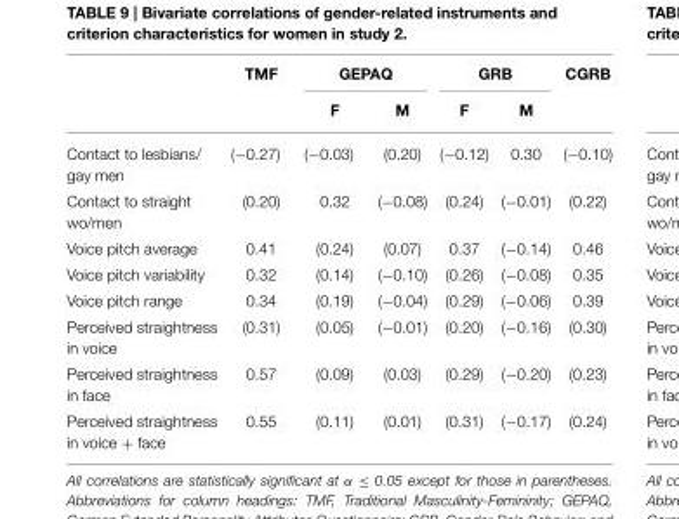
<table><thead><tr><td rowspan="2"></td><td rowspan="2">TMF</td><td colspan="2">GEPAQ</td><td colspan="2">GRB</td><td rowspan="2">CGRB</td></tr><tr><td>F</td><td>M</td><td>F</td><td>M</td></tr></thead><tbody><tr><td>Contact to lesbians/ gay men</td><td>(−0.27)</td><td>(−0.03)</td><td>(0.20)</td><td>(−0.12)</td><td>0.30</td><td>(−0.10)</td></tr><tr><td>Contact to straight wo/men</td><td>(0.20)</td><td>0.32</td><td>(−0.08)</td><td>(0.24)</td><td>(−0.01)</td><td>(0.22)</td></tr><tr><td>Voice pitch average</td><td>0.41</td><td>(0.24)</td><td>(0.07)</td><td>0.37</td><td>(−0.14)</td><td>0.46</td></tr><tr><td>Voice pitch variability</td><td>0.32</td><td>(0.14)</td><td>(−0.10)</td><td>(0.26)</td><td>(−0.08)</td><td>0.35</td></tr><tr><td>Voice pitch range</td><td>0.34</td><td>(0.19)</td><td>(−0.04)</td><td>(0.29)</td><td>(−0.06)</td><td>0.39</td></tr><tr><td>Perceived straightness in voice</td><td>(0.31)</td><td>(0.05)</td><td>(−0.01)</td><td>(0.20)</td><td>(−0.16)</td><td>(0.30)</td></tr><tr><td>Perceived straightness in face</td><td>0.57</td><td>(0.09)</td><td>(0.03)</td><td>(0.29)</td><td>(−0.20)</td><td>(0.23)</td></tr><tr><td>Perceived straightness in voice + face</td><td>0.55</td><td>(0.11)</td><td>(0.01)</td><td>(0.31)</td><td>(−0.17)</td><td>(0.24)</td></tr></tbody></table>